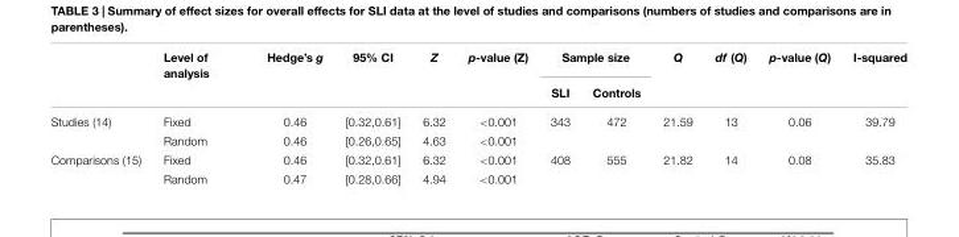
<table><thead><tr><td rowspan="2"></td><td rowspan="2">Level of analysis</td><td rowspan="2">Hedge’s g</td><td rowspan="2">95% CI</td><td rowspan="2">Z</td><td rowspan="2">p-value (Z)</td><td colspan="2">Sample size</td><td rowspan="2">Q</td><td rowspan="2">df (Q)</td><td rowspan="2">p-value (Q)</td><td rowspan="2">I-squared</td></tr><tr><td>SLI</td><td>Controls</td></tr></thead><tbody><tr><td rowspan="2">Studies (14)</td><td>Fixed</td><td>0.46</td><td>[0.32,0.61]</td><td>6.32</td><td>&lt;0.001</td><td>343</td><td>472</td><td>21.59</td><td>13</td><td>0.06</td><td>39.79</td></tr><tr><td>Random</td><td>0.46</td><td>[0.26,0.65]</td><td>4.63</td><td>&lt;0.001</td><td></td><td></td><td></td><td></td><td></td><td></td></tr><tr><td rowspan="2">Comparisons (15)</td><td>Fixed</td><td>0.46</td><td>[0.32,0.61]</td><td>6.32</td><td>&lt;0.001</td><td>408</td><td>555</td><td>21.82</td><td>14</td><td>0.08</td><td>35.83</td></tr><tr><td>Random</td><td>0.47</td><td>[0.28,0.66]</td><td>4.94</td><td>&lt;0.001</td><td></td><td></td><td></td><td></td><td></td><td></td></tr></tbody></table>